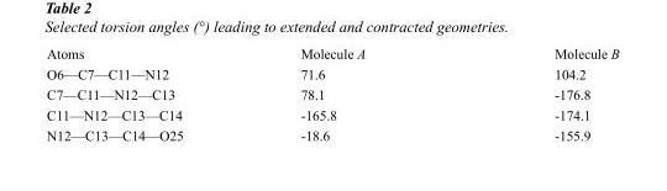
<table><tbody><tr><td>Atoms</td><td>Molecule A</td><td>Molecule B</td></tr><tr><td>O6—C7—C11—N12</td><td>71.6</td><td>104.2</td></tr><tr><td>C7—C11—N12—C13</td><td>78.1</td><td>-176.8</td></tr><tr><td>C11—N12—C13—C14</td><td>-165.8</td><td>-174.1</td></tr><tr><td>N12—C13—C14—O25</td><td>-18.6</td><td>-155.9</td></tr></tbody></table>